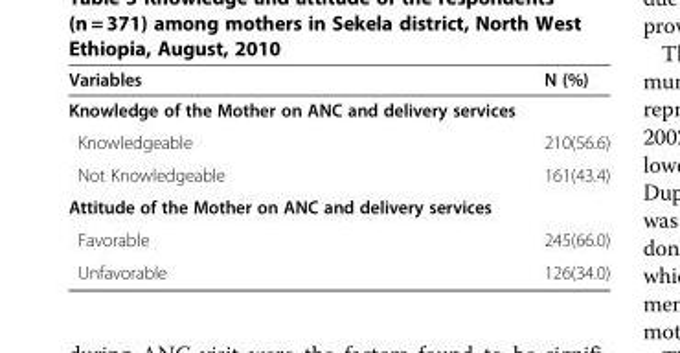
<table><thead><tr><td>Variables</td><td>N (%)</td></tr></thead><tbody><tr><td colspan="2">Knowledge of the Mother on ANC and delivery services</td></tr><tr><td>Knowledgeable</td><td>210(56.6)</td></tr><tr><td>Not Knowledgeable</td><td>161(43.4)</td></tr><tr><td colspan="2">Attitude of the Mother on ANC and delivery services</td></tr><tr><td>Favorable</td><td>245(66.0)</td></tr><tr><td>Unfavorable</td><td>126(34.0)</td></tr></tbody></table>